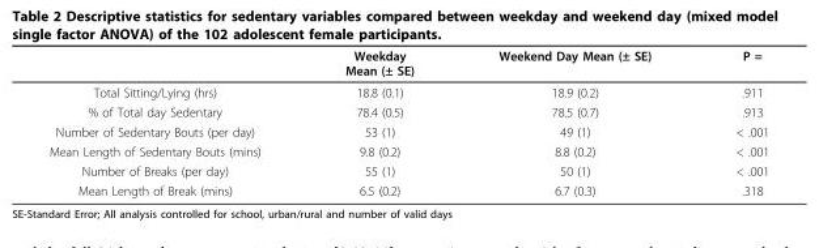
<table><thead><tr><td></td><td>Weekday Mean (± SE)</td><td>Weekend Day Mean (± SE)</td><td>P =</td></tr></thead><tbody><tr><td>Total Sitting/Lying (hrs)</td><td>18.8 (0.1)</td><td>18.9 (0.2)</td><td>.911</td></tr><tr><td>% of Total day Sedentary</td><td>78.4 (0.5)</td><td>78.5 (0.7)</td><td>.913</td></tr><tr><td>Number of Sedentary Bouts (per day)</td><td>53 (1)</td><td>49 (1)</td><td>&lt; .001</td></tr><tr><td>Mean Length of Sedentary Bouts (mins)</td><td>9.8 (0.2)</td><td>8.8 (0.2)</td><td>&lt; .001</td></tr><tr><td>Number of Breaks (per day)</td><td>55 (1)</td><td>50 (1)</td><td>&lt; .001</td></tr><tr><td>Mean Length of Break (mins)</td><td>6.5 (0.2)</td><td>6.7 (0.3)</td><td>.318</td></tr></tbody></table>